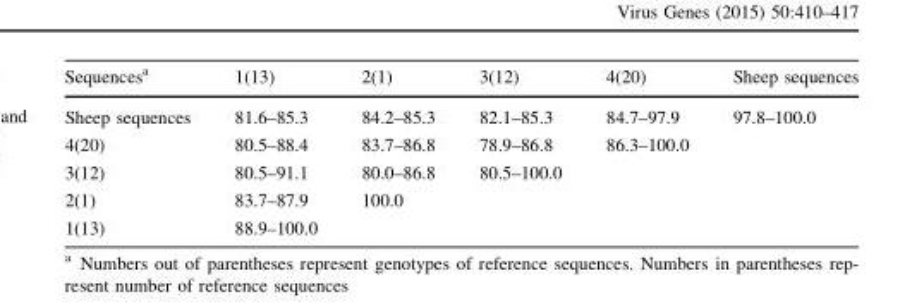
<table><thead><tr><td>Sequences<sup>a</sup></td><td>1(13)</td><td>2(1)</td><td>3(12)</td><td>4(20)</td><td>Sheep sequences</td></tr></thead><tbody><tr><td>Sheep sequences</td><td>81.6–85.3</td><td>84.2–85.3</td><td>82.1–85.3</td><td>84.7–97.9</td><td>97.8–100.0</td></tr><tr><td>4(20)</td><td>80.5–88.4</td><td>83.7–86.8</td><td>78.9–86.8</td><td>86.3–100.0</td><td></td></tr><tr><td>3(12)</td><td>80.5–91.1</td><td>80.0–86.8</td><td>80.5–100.0</td><td></td><td></td></tr><tr><td>2(1)</td><td>83.7–87.9</td><td>100.0</td><td></td><td></td><td></td></tr><tr><td>1(13)</td><td>88.9–100.0</td><td></td><td></td><td></td><td></td></tr></tbody></table>